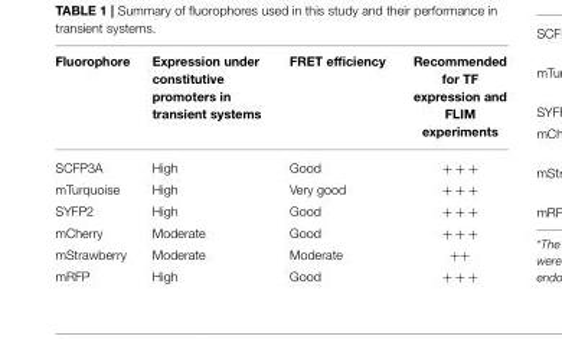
<table><thead><tr><td>Fluorophore</td><td>Expression under constitutive promoters in transient systems</td><td>FRET efficiency</td><td>Recommended for TF expression and FLIM experiments</td></tr></thead><tbody><tr><td>SCFP3A</td><td>High</td><td>Good</td><td>+ + +</td></tr><tr><td>mTurquoise</td><td>High</td><td>Very good</td><td>+ + +</td></tr><tr><td>SYFP2</td><td>High</td><td>Good</td><td>+ + +</td></tr><tr><td>mCherry</td><td>Moderate</td><td>Good</td><td>+ + +</td></tr><tr><td>mStrawberry</td><td>Moderate</td><td>Moderate</td><td>++</td></tr><tr><td>mRFP</td><td>High</td><td>Good</td><td>+ + +</td></tr></tbody></table>